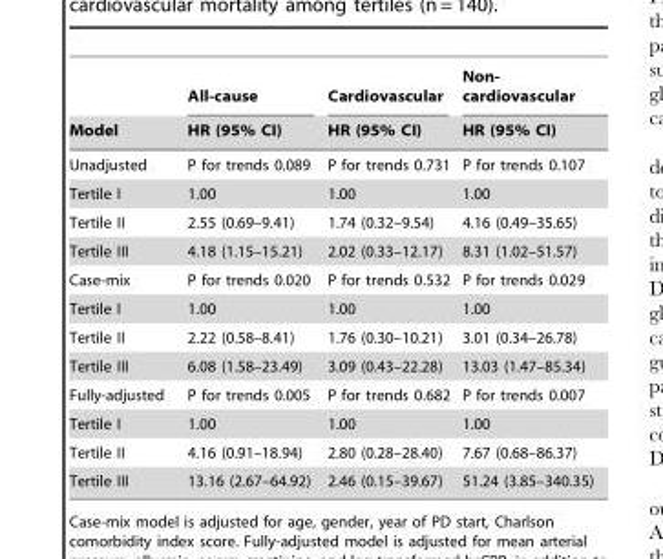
<table><thead><tr><td rowspan="2">Model</td><td rowspan="2">All-cause HR (95% CI)</td><td rowspan="2">Cardiovascular HR (95% CI)</td><td rowspan="2">Non- cardiovascular HR (95% CI)</td></tr><tr></tr></thead><tbody><tr><td>Unadjusted</td><td>P for trends 0.089</td><td>P for trends 0.731</td><td>P for trends 0.107</td></tr><tr><td>Tertile I</td><td>1.00</td><td>1.00</td><td>1.00</td></tr><tr><td>Tertile II</td><td>2.55 (0.69–9.41)</td><td>1.74 (0.32–9.54)</td><td>4.16 (0.49–35.65)</td></tr><tr><td>Tertile III</td><td>4.18 (1.15–15.21)</td><td>2.02 (0.33–12.17)</td><td>8.31 (1.02–51.57)</td></tr><tr><td>Case-mix</td><td>P for trends 0.020</td><td>P for trends 0.532</td><td>P for trends 0.029</td></tr><tr><td>Tertile I</td><td>1.00</td><td>1.00</td><td>1.00</td></tr><tr><td>Tertile II</td><td>2.22 (0.58–8.41)</td><td>1.76 (0.30–10.21)</td><td>3.01 (0.34–26.78)</td></tr><tr><td>Tertile III</td><td>6.08 (1.58–23.49)</td><td>3.09 (0.43–22.28)</td><td>13.03 (1.47–85.34)</td></tr><tr><td>Fully-adjusted</td><td>P for trends 0.005</td><td>P for trends 0.682</td><td>P for trends 0.007</td></tr><tr><td>Tertile I</td><td>1.00</td><td>1.00</td><td>1.00</td></tr><tr><td>Tertile II</td><td>4.16 (0.91–18.94)</td><td>2.80 (0.28–28.40)</td><td>7.67 (0.68–86.37)</td></tr><tr><td>Tertile III</td><td>13.16 (2.67–64.92)</td><td>2.46 (0.15–39.67)</td><td>51.24 (3.85–340.35)</td></tr></tbody></table>